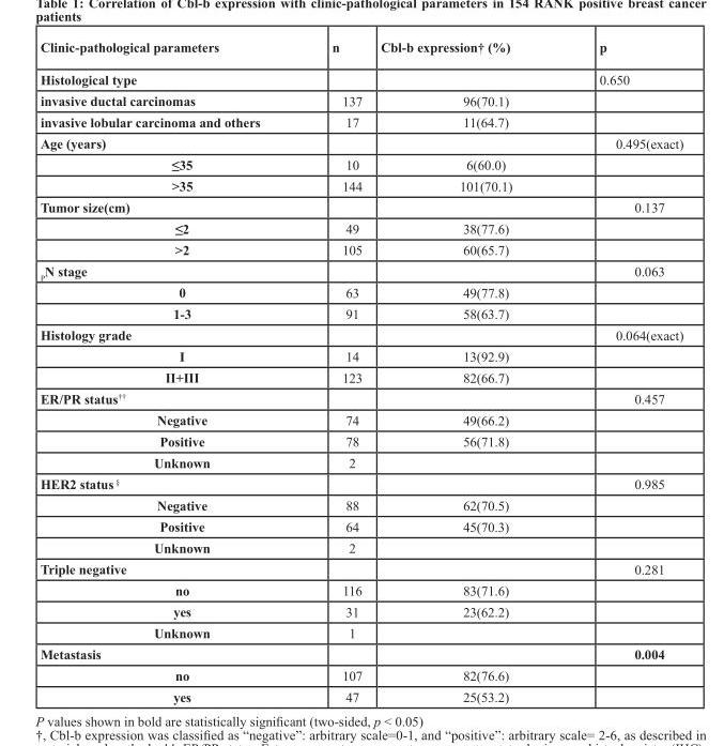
<table><thead><tr><td>Clinic-pathological parameters</td><td>n</td><td>Cbl-b expression† (%)</td><td>p</td></tr></thead><tbody><tr><td>Histological type</td><td></td><td></td><td>0.650</td></tr><tr><td>invasive ductal carcinomas</td><td>137</td><td>96(70.1)</td><td></td></tr><tr><td>invasive lobular carcinoma and others</td><td>17</td><td>11(64.7)</td><td></td></tr><tr><td>Age (years)</td><td></td><td></td><td>0.495(exact)</td></tr><tr><td>≤35</td><td>10</td><td>6(60.0)</td><td></td></tr><tr><td>&gt;35</td><td>144</td><td>101(70.1)</td><td></td></tr><tr><td>Tumor size(cm)</td><td></td><td></td><td>0.137</td></tr><tr><td>≤2</td><td>49</td><td>38(77.6)</td><td></td></tr><tr><td>&gt;2</td><td>105</td><td>60(65.7)</td><td></td></tr><tr><td><sub>P</sub>N stage</td><td></td><td></td><td>0.063</td></tr><tr><td>0</td><td>63</td><td>49(77.8)</td><td></td></tr><tr><td>1-3</td><td>91</td><td>58(63.7)</td><td></td></tr><tr><td>Histology grade</td><td></td><td></td><td>0.064(exact)</td></tr><tr><td>I</td><td>14</td><td>13(92.9)</td><td></td></tr><tr><td>II+III</td><td>123</td><td>82(66.7)</td><td></td></tr><tr><td>ER/PR status<sup>††</sup></td><td></td><td></td><td>0.457</td></tr><tr><td>Negative</td><td>74</td><td>49(66.2)</td><td></td></tr><tr><td>Positive</td><td>78</td><td>56(71.8)</td><td></td></tr><tr><td>Unknown</td><td>2</td><td></td><td></td></tr><tr><td>HER2 status <sup>§</sup></td><td></td><td></td><td>0.985</td></tr><tr><td>Negative</td><td>88</td><td>62(70.5)</td><td></td></tr><tr><td>Positive</td><td>64</td><td>45(70.3)</td><td></td></tr><tr><td>Unknown</td><td>2</td><td></td><td></td></tr><tr><td>Triple negative</td><td></td><td></td><td>0.281</td></tr><tr><td>no</td><td>116</td><td>83(71.6)</td><td></td></tr><tr><td>yes</td><td>31</td><td>23(62.2)</td><td></td></tr><tr><td>Unknown</td><td>1</td><td></td><td></td></tr><tr><td>Metastasis</td><td></td><td></td><td>0.004</td></tr><tr><td>no</td><td>107</td><td>82(76.6)</td><td></td></tr><tr><td>yes</td><td>47</td><td>25(53.2)</td><td></td></tr></tbody></table>